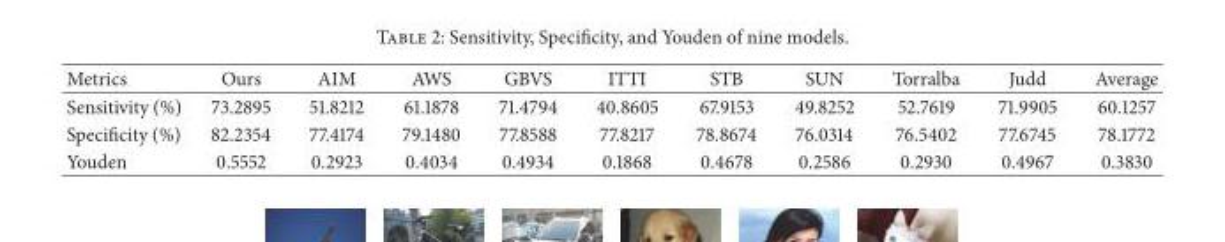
<table><thead><tr><td>Metrics</td><td>Ours</td><td>AIM</td><td>AWS</td><td>GBVS</td><td>ITTI</td><td>STB</td><td>SUN</td><td>Torralba</td><td>Judd</td><td>Average</td></tr></thead><tbody><tr><td>Sensitivity (%)</td><td>73.2895</td><td>51.8212</td><td>61.1878</td><td>71.4794</td><td>40.8605</td><td>67.9153</td><td>49.8252</td><td>52.7619</td><td>71.9905</td><td>60.1257</td></tr><tr><td>Specificity (%)</td><td>82.2354</td><td>77.4174</td><td>79.1480</td><td>77.8588</td><td>77.8217</td><td>78.8674</td><td>76.0314</td><td>76.5402</td><td>77.6745</td><td>78.1772</td></tr><tr><td>Youden</td><td>0.5552</td><td>0.2923</td><td>0.4034</td><td>0.4934</td><td>0.1868</td><td>0.4678</td><td>0.2586</td><td>0.2930</td><td>0.4967</td><td>0.3830</td></tr></tbody></table>